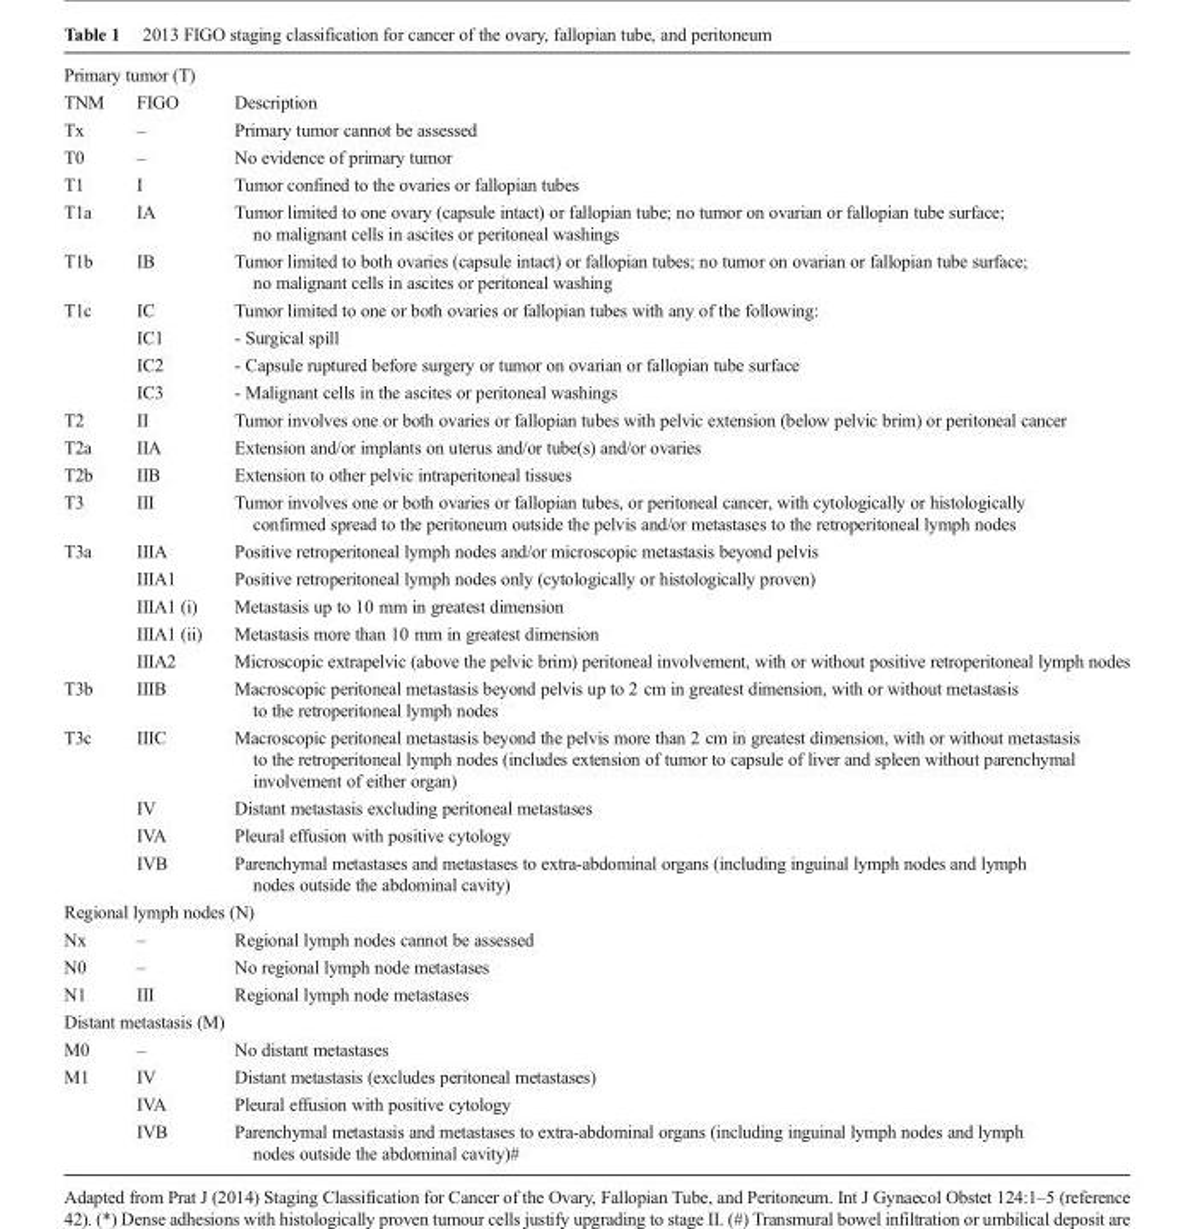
<table><tbody><tr><td colspan="3">Primary tumor (T)</td></tr><tr><td>TNM</td><td>FIGO</td><td>Description</td></tr><tr><td>Tx</td><td>–</td><td>Primary tumor cannot be assessed</td></tr><tr><td>T0</td><td>–</td><td>No evidence of primary tumor</td></tr><tr><td>T1</td><td>I</td><td>Tumor confined to the ovaries or fallopian tubes</td></tr><tr><td>T1a</td><td>IA</td><td>Tumor limited to one ovary (capsule intact) or fallopian tube; no tumor on ovarian or fallopian tube surface; no malignant cells in ascites or peritoneal washings</td></tr><tr><td>T1b</td><td>IB</td><td>Tumor limited to both ovaries (capsule intact) or fallopian tubes; no tumor on ovarian or fallopian tube surface; no malignant cells in ascites or peritoneal washing</td></tr><tr><td rowspan="4">T1c</td><td>IC</td><td>Tumor limited to one or both ovaries or fallopian tubes with any of the following:</td></tr><tr><td>IC1</td><td>- Surgical spill</td></tr><tr><td>IC2</td><td>- Capsule ruptured before surgery or tumor on ovarian or fallopian tube surface</td></tr><tr><td>IC3</td><td>- Malignant cells in the ascites or peritoneal washings</td></tr><tr><td>T2</td><td>II</td><td>Tumor involves one or both ovaries or fallopian tubes with pelvic extension (below pelvic brim) or peritoneal cancer</td></tr><tr><td>T2a</td><td>IIA</td><td>Extension and/or implants on uterus and/or tube(s) and/or ovaries</td></tr><tr><td>T2b</td><td>IIB</td><td>Extension to other pelvic intraperitoneal tissues</td></tr><tr><td>T3</td><td>III</td><td>Tumor involves one or both ovaries or fallopian tubes, or peritoneal cancer, with cytologically or histologically confirmed spread to the peritoneum outside the pelvis and/or metastases to the retroperitoneal lymph nodes</td></tr><tr><td rowspan="5">T3a</td><td>IIIA</td><td>Positive retroperitoneal lymph nodes and/or microscopic metastasis beyond pelvis</td></tr><tr><td>IIIA1</td><td>Positive retroperitoneal lymph nodes only (cytologically or histologically proven)</td></tr><tr><td>IIIA1 (i)</td><td>Metastasis up to 10 mm in greatest dimension</td></tr><tr><td>IIIA1 (ii)</td><td>Metastasis more than 10 mm in greatest dimension</td></tr><tr><td>IIIA2</td><td>Microscopic extrapelvic (above the pelvic brim) peritoneal involvement, with or without positive retroperitoneal lymph nodes</td></tr><tr><td>T3b</td><td>IIIB</td><td>Macroscopic peritoneal metastasis beyond pelvis up to 2 cm in greatest dimension, with or without metastasis to the retroperitoneal lymph nodes</td></tr><tr><td rowspan="4">T3c</td><td>IIIC</td><td>Macroscopic peritoneal metastasis beyond the pelvis more than 2 cm in greatest dimension, with or without metastasis to the retroperitoneal lymph nodes (includes extension of tumor to capsule of liver and spleen without parenchymal involvement of either organ)</td></tr><tr><td>IV</td><td>Distant metastasis excluding peritoneal metastases</td></tr><tr><td>IVA</td><td>Pleural effusion with positive cytology</td></tr><tr><td>IVB</td><td>Parenchymal metastases and metastases to extra-abdominal organs (including inguinal lymph nodes and lymph nodes outside the abdominal cavity)</td></tr><tr><td colspan="3">Regional lymph nodes (N)</td></tr><tr><td>Nx</td><td>–</td><td>Regional lymph nodes cannot be assessed</td></tr><tr><td>N0</td><td>–</td><td>No regional lymph node metastases</td></tr><tr><td>N1</td><td>III</td><td>Regional lymph node metastases</td></tr><tr><td colspan="3">Distant metastasis (M)</td></tr><tr><td>M0</td><td>–</td><td>No distant metastases</td></tr><tr><td rowspan="3">M1</td><td>IV</td><td>Distant metastasis (excludes peritoneal metastases)</td></tr><tr><td>IVA</td><td>Pleural effusion with positive cytology</td></tr><tr><td>IVB</td><td>Parenchymal metastasis and metastases to extra-abdominal organs (including inguinal lymph nodes and lymph nodes outside the abdominal cavity)#</td></tr></tbody></table>